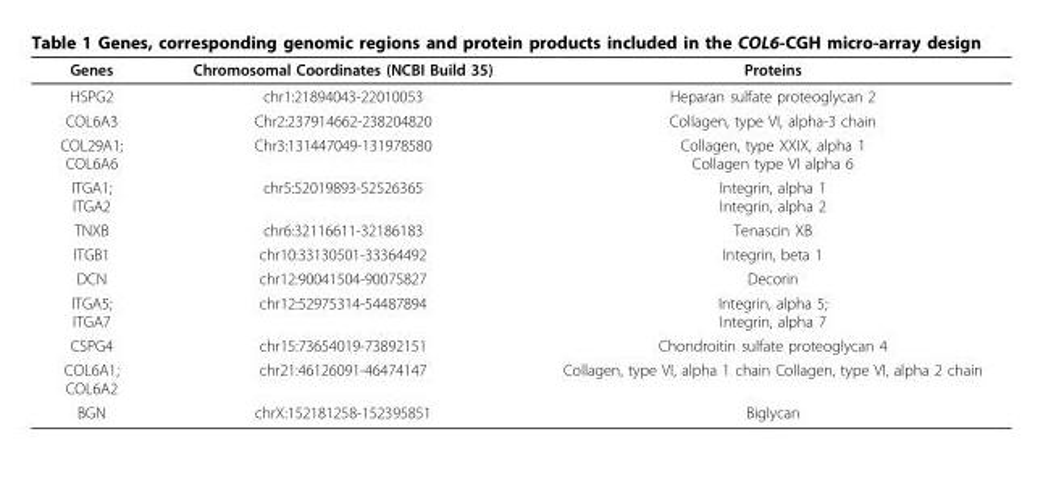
<table><thead><tr><td>Genes</td><td>Chromosomal Coordinates (NCBI Build 35)</td><td>Proteins</td></tr></thead><tbody><tr><td>HSPG2</td><td>chr1:21894043-22010053</td><td>Heparan sulfate proteoglycan 2</td></tr><tr><td>COL6A3</td><td>Chr2:237914662-238204820</td><td>Collagen, type VI, alpha-3 chain</td></tr><tr><td>COL29A1; COL6A6</td><td>Chr3:131447049-131978580</td><td>Collagen, type XXIX, alpha 1 Collagen type VI alpha 6</td></tr><tr><td>ITGA1; ITGA2</td><td>chr5:52019893-52526365</td><td>Integrin, alpha 1 Integrin, alpha 2</td></tr><tr><td>TNXB</td><td>chr6:32116611-32186183</td><td>Tenascin XB</td></tr><tr><td>ITGB1</td><td>chr10:33130501-33364492</td><td>Integrin, beta 1</td></tr><tr><td>DCN</td><td>chr12:90041504-90075827</td><td>Decorin</td></tr><tr><td>ITGA5; ITGA7</td><td>chr12:52975314-54487894</td><td>Integrin, alpha 5; Integrin, alpha 7</td></tr><tr><td>CSPG4</td><td>chr15:73654019-73892151</td><td>Chondroitin sulfate proteoglycan 4</td></tr><tr><td>COL6A1; COL6A2</td><td>chr21:46126091-46474147</td><td>Collagen, type VI, alpha 1 chain Collagen, type VI, alpha 2 chain</td></tr><tr><td>BGN</td><td>chrX:152181258-152395851</td><td>Biglycan</td></tr></tbody></table>